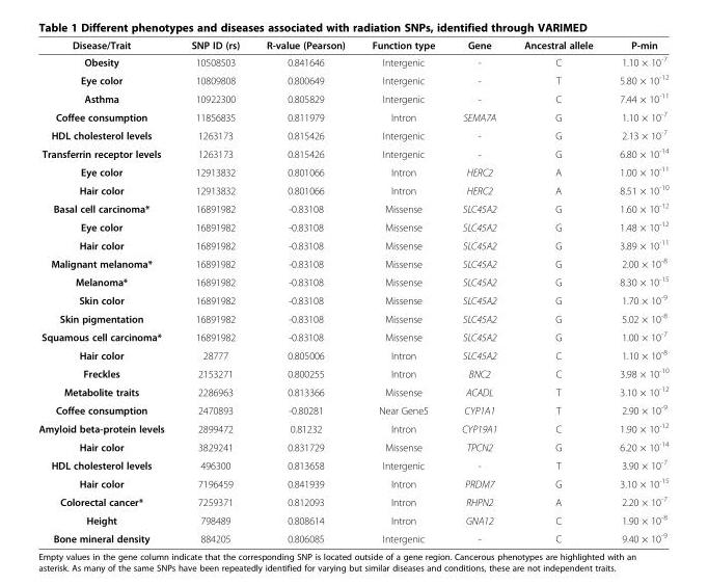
<table><thead><tr><td>Disease/Trait</td><td>SNP ID (rs)</td><td>R-value (Pearson)</td><td>Function type</td><td>Gene</td><td>Ancestral allele</td><td>P-min</td></tr></thead><tbody><tr><td>Obesity</td><td>10508503</td><td>0.841646</td><td>Intergenic</td><td>-</td><td>C</td><td>1.10 × 10<sup>-7</sup></td></tr><tr><td>Eye color</td><td>10809808</td><td>0.800649</td><td>Intergenic</td><td>-</td><td>T</td><td>5.80 × 10<sup>-12</sup></td></tr><tr><td>Asthma</td><td>10922300</td><td>0.805829</td><td>Intergenic</td><td>-</td><td>C</td><td>7.44 × 10<sup>-11</sup></td></tr><tr><td>Coffee consumption</td><td>11856835</td><td>0.811979</td><td>Intron</td><td>SEMA7A</td><td>G</td><td>1.10 × 10<sup>-7</sup></td></tr><tr><td>HDL cholesterol levels</td><td>1263173</td><td>0.815426</td><td>Intergenic</td><td>-</td><td>G</td><td>2.13 × 10<sup>-7</sup></td></tr><tr><td>Transferrin receptor levels</td><td>1263173</td><td>0.815426</td><td>Intergenic</td><td>-</td><td>G</td><td>6.80 × 10<sup>-14</sup></td></tr><tr><td>Eye color</td><td>12913832</td><td>0.801066</td><td>Intron</td><td>HERC2</td><td>A</td><td>1.00 × 10<sup>-11</sup></td></tr><tr><td>Hair color</td><td>12913832</td><td>0.801066</td><td>Intron</td><td>HERC2</td><td>A</td><td>8.51 × 10<sup>-10</sup></td></tr><tr><td>Basal cell carcinoma*</td><td>16891982</td><td>-0.83108</td><td>Missense</td><td>SLC45A2</td><td>G</td><td>1.60 × 10<sup>-12</sup></td></tr><tr><td>Eye color</td><td>16891982</td><td>-0.83108</td><td>Missense</td><td>SLC45A2</td><td>G</td><td>1.48 × 10<sup>-12</sup></td></tr><tr><td>Hair color</td><td>16891982</td><td>-0.83108</td><td>Missense</td><td>SLC45A2</td><td>G</td><td>3.89 × 10<sup>-11</sup></td></tr><tr><td>Malignant melanoma*</td><td>16891982</td><td>-0.83108</td><td>Missense</td><td>SLC45A2</td><td>G</td><td>2.00 × 10<sup>-8</sup></td></tr><tr><td>Melanoma*</td><td>16891982</td><td>-0.83108</td><td>Missense</td><td>SLC45A2</td><td>G</td><td>8.30 × 10<sup>-15</sup></td></tr><tr><td>Skin color</td><td>16891982</td><td>-0.83108</td><td>Missense</td><td>SLC45A2</td><td>G</td><td>1.70 × 10<sup>-9</sup></td></tr><tr><td>Skin pigmentation</td><td>16891982</td><td>-0.83108</td><td>Missense</td><td>SLC45A2</td><td>G</td><td>5.02 × 10<sup>-8</sup></td></tr><tr><td>Squamous cell carcinoma*</td><td>16891982</td><td>-0.83108</td><td>Missense</td><td>SLC45A2</td><td>G</td><td>1.00 × 10<sup>-7</sup></td></tr><tr><td>Hair color</td><td>28777</td><td>0.805006</td><td>Intron</td><td>SLC45A2</td><td>C</td><td>1.10 × 10<sup>-8</sup></td></tr><tr><td>Freckles</td><td>2153271</td><td>0.800255</td><td>Intron</td><td>BNC2</td><td>C</td><td>3.98 × 10<sup>-10</sup></td></tr><tr><td>Metabolite traits</td><td>2286963</td><td>0.813366</td><td>Missense</td><td>ACADL</td><td>T</td><td>3.10 × 10<sup>-12</sup></td></tr><tr><td>Coffee consumption</td><td>2470893</td><td>-0.80281</td><td>Near Gene5</td><td>CYP1A1</td><td>T</td><td>2.90 × 10<sup>-9</sup></td></tr><tr><td>Amyloid beta-protein levels</td><td>2899472</td><td>0.81232</td><td>Intron</td><td>CYP19A1</td><td>C</td><td>1.90 × 10<sup>-12</sup></td></tr><tr><td>Hair color</td><td>3829241</td><td>0.831729</td><td>Missense</td><td>TPCN2</td><td>G</td><td>6.20 × 10<sup>-14</sup></td></tr><tr><td>HDL cholesterol levels</td><td>496300</td><td>0.813658</td><td>Intergenic</td><td>-</td><td>T</td><td>3.90 × 10<sup>-7</sup></td></tr><tr><td>Hair color</td><td>7196459</td><td>0.841939</td><td>Intron</td><td>PRDM7</td><td>G</td><td>3.10 × 10<sup>-15</sup></td></tr><tr><td>Colorectal cancer*</td><td>7259371</td><td>0.812093</td><td>Intron</td><td>RHPN2</td><td>A</td><td>2.20 × 10<sup>-7</sup></td></tr><tr><td>Height</td><td>798489</td><td>0.808614</td><td>Intron</td><td>GNA12</td><td>C</td><td>1.90 × 10<sup>-8</sup></td></tr><tr><td>Bone mineral density</td><td>884205</td><td>0.806085</td><td>Intergenic</td><td>-</td><td>C</td><td>9.40 × 10<sup>-9</sup></td></tr></tbody></table>